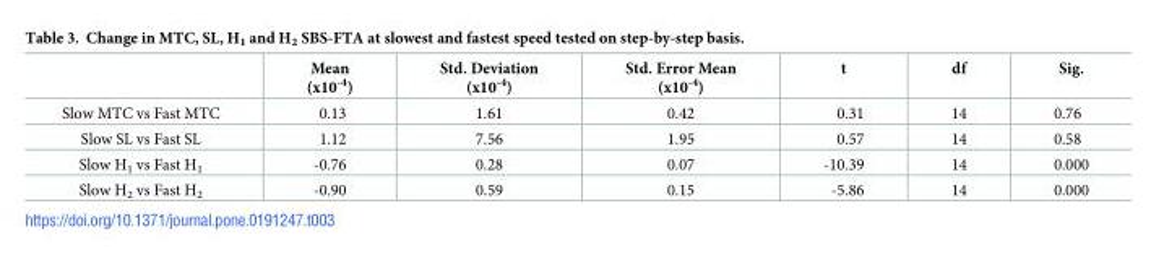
<table><thead><tr><td></td><td>Mean (x10<sup>-4</sup>)</td><td>Std. Deviation (x10<sup>-4</sup>)</td><td>Std. Error Mean (x10<sup>-4</sup>)</td><td>t</td><td>df</td><td>Sig.</td></tr></thead><tbody><tr><td>Slow MTC vs Fast MTC</td><td>0.13</td><td>1.61</td><td>0.42</td><td>0.31</td><td>14</td><td>0.76</td></tr><tr><td>Slow SL vs Fast SL</td><td>1.12</td><td>7.56</td><td>1.95</td><td>0.57</td><td>14</td><td>0.58</td></tr><tr><td>Slow H<sub>1</sub> vs Fast H<sub>1</sub></td><td>-0.76</td><td>0.28</td><td>0.07</td><td>-10.39</td><td>14</td><td>0.000</td></tr><tr><td>Slow H<sub>2</sub> vs Fast H<sub>2</sub></td><td>-0.90</td><td>0.59</td><td>0.15</td><td>-5.86</td><td>14</td><td>0.000</td></tr></tbody></table>